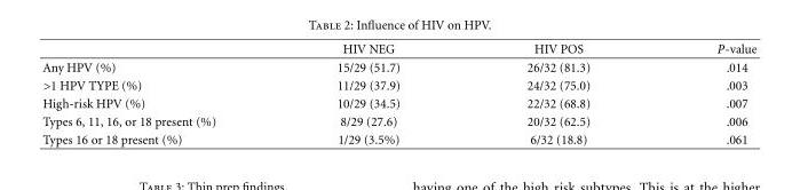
<table><thead><tr><td></td><td>HIV NEG</td><td>HIV POS</td><td>P-value</td></tr></thead><tbody><tr><td>Any HPV (%)</td><td>15/29 (51.7)</td><td>26/32 (81.3)</td><td>.014</td></tr><tr><td>&gt;1 HPV TYPE (%)</td><td>11/29 (37.9)</td><td>24/32 (75.0)</td><td>.003</td></tr><tr><td>High-risk HPV (%)</td><td>10/29 (34.5)</td><td>22/32 (68.8)</td><td>.007</td></tr><tr><td>Types 6, 11, 16, or 18 present (%)</td><td>8/29 (27.6)</td><td>20/32 (62.5)</td><td>.006</td></tr><tr><td>Types 16 or 18 present (%)</td><td>1/29 (3.5%)</td><td>6/32 (18.8)</td><td>.061</td></tr></tbody></table>